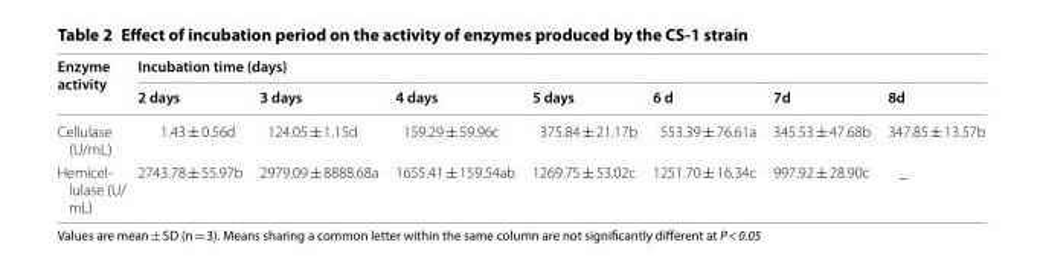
<table><thead><tr><td rowspan="2">Enzyme activity</td><td colspan="7">Incubation time (days)</td></tr><tr><td>2 days</td><td>3 days</td><td>4 days</td><td>5 days</td><td>6 d</td><td>7d</td><td>8d</td></tr></thead><tbody><tr><td>Cellulase (U/mL)</td><td>1.43 ± 0.56d</td><td>124.05 ± 1.15d</td><td>159.29 ± 59.96c</td><td>375.84 ± 21.17b</td><td>553.39 ± 76.61a</td><td>345.53 ± 47.68b</td><td>347.85 ± 13.57b</td></tr><tr><td>Hemicel- lulase (U/ mL)</td><td>2743.78 ± 55.97b</td><td>2979.09 ± 8888.68a</td><td>1655.41 ± 159.54ab</td><td>1269.75 ± 53.02c</td><td>1251.70 ± 16.34c</td><td>997.92 ± 28.90c</td><td>_</td></tr></tbody></table>